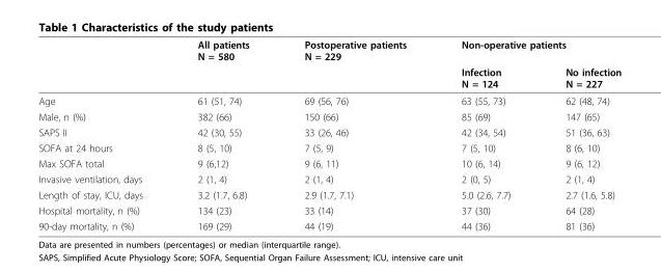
<table><thead><tr><td rowspan="2"></td><td rowspan="2">All patients N = 580</td><td rowspan="2">Postoperative patients N = 229</td><td colspan="2">Non-operative patients</td></tr><tr><td>Infection N = 124</td><td>No infection N = 227</td></tr></thead><tbody><tr><td>Age</td><td>61 (51, 74)</td><td>69 (56, 76)</td><td>63 (55, 73)</td><td>62 (48, 74)</td></tr><tr><td>Male, n (%)</td><td>382 (66)</td><td>150 (66)</td><td>85 (69)</td><td>147 (65)</td></tr><tr><td>SAPS II</td><td>42 (30, 55)</td><td>33 (26, 46)</td><td>42 (34, 54)</td><td>51 (36, 63)</td></tr><tr><td>SOFA at 24 hours</td><td>8 (5, 10)</td><td>7 (5, 9)</td><td>7 (5, 10)</td><td>8 (6, 10)</td></tr><tr><td>Max SOFA total</td><td>9 (6,12)</td><td>9 (6, 11)</td><td>10 (6, 14)</td><td>9 (6, 12)</td></tr><tr><td>Invasive ventilation, days</td><td>2 (1, 4)</td><td>2 (1, 4)</td><td>2 (0, 5)</td><td>2 (1, 4)</td></tr><tr><td>Length of stay, ICU, days</td><td>3.2 (1.7, 6.8)</td><td>2.9 (1.7, 7.1)</td><td>5.0 (2.6, 7.7)</td><td>2.7 (1.6, 5.8)</td></tr><tr><td>Hospital mortality, n (%)</td><td>134 (23)</td><td>33 (14)</td><td>37 (30)</td><td>64 (28)</td></tr><tr><td>90-day mortality, n (%)</td><td>169 (29)</td><td>44 (19)</td><td>44 (36)</td><td>81 (36)</td></tr></tbody></table>